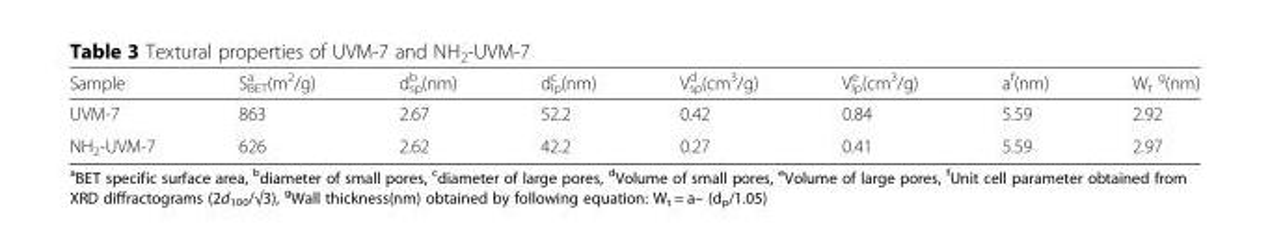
<table><thead><tr><td>Sample</td><td>S<sub>BET</sub> <sup>a</sup> (m<sup>2</sup>/g)</td><td>d<sub>sp</sub> <sup>b</sup> (nm)</td><td>d<sub>lp</sub> <sup>c</sup> (nm)</td><td>V<sub>sp</sub> <sup>d</sup> (cm<sup>3</sup>/g)</td><td>V<sub>lp</sub> <sup>e</sup> (cm<sup>3</sup>/g)</td><td>a<sup>f</sup>(nm)</td><td>W<sub>t</sub> <sup>g</sup>(nm)</td></tr></thead><tbody><tr><td>UVM-7</td><td>863</td><td>2.67</td><td>52.2</td><td>0.42</td><td>0.84</td><td>5.59</td><td>2.92</td></tr><tr><td>NH<sub>2</sub>-UVM-7</td><td>626</td><td>2.62</td><td>42.2</td><td>0.27</td><td>0.41</td><td>5.59</td><td>2.97</td></tr></tbody></table>